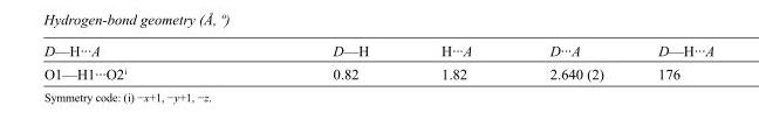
<table><tbody><tr><td>D—H···A</td><td>D—H</td><td>H···A</td><td>D···A</td><td>D—H···A</td></tr><tr><td>O1—H1···O2<sup>i</sup></td><td>0.82</td><td>1.82</td><td>2.640 (2)</td><td>176</td></tr></tbody></table>